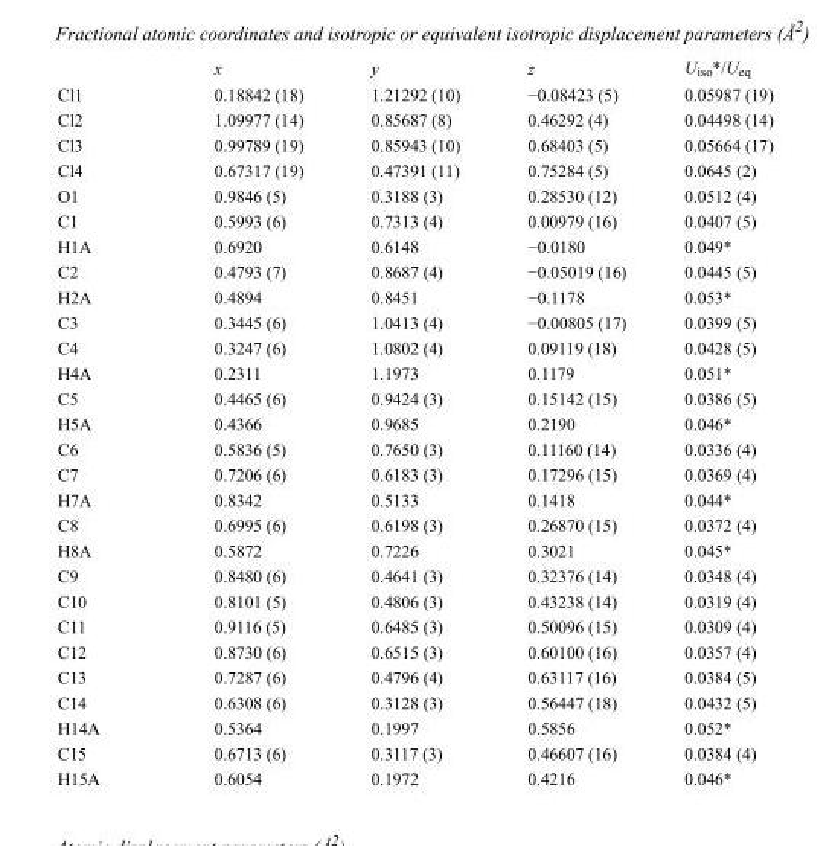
<table><thead><tr><td></td><td>x</td><td>y</td><td>z</td><td>U<sub>iso</sub>*/U<sub>eq</sub></td></tr></thead><tbody><tr><td>Cl1</td><td>0.18842 (18)</td><td>1.21292 (10)</td><td>−0.08423 (5)</td><td>0.05987 (19)</td></tr><tr><td>Cl2</td><td>1.09977 (14)</td><td>0.85687 (8)</td><td>0.46292 (4)</td><td>0.04498 (14)</td></tr><tr><td>Cl3</td><td>0.99789 (19)</td><td>0.85943 (10)</td><td>0.68403 (5)</td><td>0.05664 (17)</td></tr><tr><td>Cl4</td><td>0.67317 (19)</td><td>0.47391 (11)</td><td>0.75284 (5)</td><td>0.0645 (2)</td></tr><tr><td>O1</td><td>0.9846 (5)</td><td>0.3188 (3)</td><td>0.28530 (12)</td><td>0.0512 (4)</td></tr><tr><td>C1</td><td>0.5993 (6)</td><td>0.7313 (4)</td><td>0.00979 (16)</td><td>0.0407 (5)</td></tr><tr><td>H1A</td><td>0.6920</td><td>0.6148</td><td>−0.0180</td><td>0.049*</td></tr><tr><td>C2</td><td>0.4793 (7)</td><td>0.8687 (4)</td><td>−0.05019 (16)</td><td>0.0445 (5)</td></tr><tr><td>H2A</td><td>0.4894</td><td>0.8451</td><td>−0.1178</td><td>0.053*</td></tr><tr><td>C3</td><td>0.3445 (6)</td><td>1.0413 (4)</td><td>−0.00805 (17)</td><td>0.0399 (5)</td></tr><tr><td>C4</td><td>0.3247 (6)</td><td>1.0802 (4)</td><td>0.09119 (18)</td><td>0.0428 (5)</td></tr><tr><td>H4A</td><td>0.2311</td><td>1.1973</td><td>0.1179</td><td>0.051*</td></tr><tr><td>C5</td><td>0.4465 (6)</td><td>0.9424 (3)</td><td>0.15142 (15)</td><td>0.0386 (5)</td></tr><tr><td>H5A</td><td>0.4366</td><td>0.9685</td><td>0.2190</td><td>0.046*</td></tr><tr><td>C6</td><td>0.5836 (5)</td><td>0.7650 (3)</td><td>0.11160 (14)</td><td>0.0336 (4)</td></tr><tr><td>C7</td><td>0.7206 (6)</td><td>0.6183 (3)</td><td>0.17296 (15)</td><td>0.0369 (4)</td></tr><tr><td>H7A</td><td>0.8342</td><td>0.5133</td><td>0.1418</td><td>0.044*</td></tr><tr><td>C8</td><td>0.6995 (6)</td><td>0.6198 (3)</td><td>0.26870 (15)</td><td>0.0372 (4)</td></tr><tr><td>H8A</td><td>0.5872</td><td>0.7226</td><td>0.3021</td><td>0.045*</td></tr><tr><td>C9</td><td>0.8480 (6)</td><td>0.4641 (3)</td><td>0.32376 (14)</td><td>0.0348 (4)</td></tr><tr><td>C10</td><td>0.8101 (5)</td><td>0.4806 (3)</td><td>0.43238 (14)</td><td>0.0319 (4)</td></tr><tr><td>C11</td><td>0.9116 (5)</td><td>0.6485 (3)</td><td>0.50096 (15)</td><td>0.0309 (4)</td></tr><tr><td>C12</td><td>0.8730 (6)</td><td>0.6515 (3)</td><td>0.60100 (16)</td><td>0.0357 (4)</td></tr><tr><td>C13</td><td>0.7287 (6)</td><td>0.4796 (4)</td><td>0.63117 (16)</td><td>0.0384 (5)</td></tr><tr><td>C14</td><td>0.6308 (6)</td><td>0.3128 (3)</td><td>0.56447 (18)</td><td>0.0432 (5)</td></tr><tr><td>H14A</td><td>0.5364</td><td>0.1997</td><td>0.5856</td><td>0.052*</td></tr><tr><td>C15</td><td>0.6713 (6)</td><td>0.3117 (3)</td><td>0.46607 (16)</td><td>0.0384 (4)</td></tr><tr><td>H15A</td><td>0.6054</td><td>0.1972</td><td>0.4216</td><td>0.046*</td></tr></tbody></table>